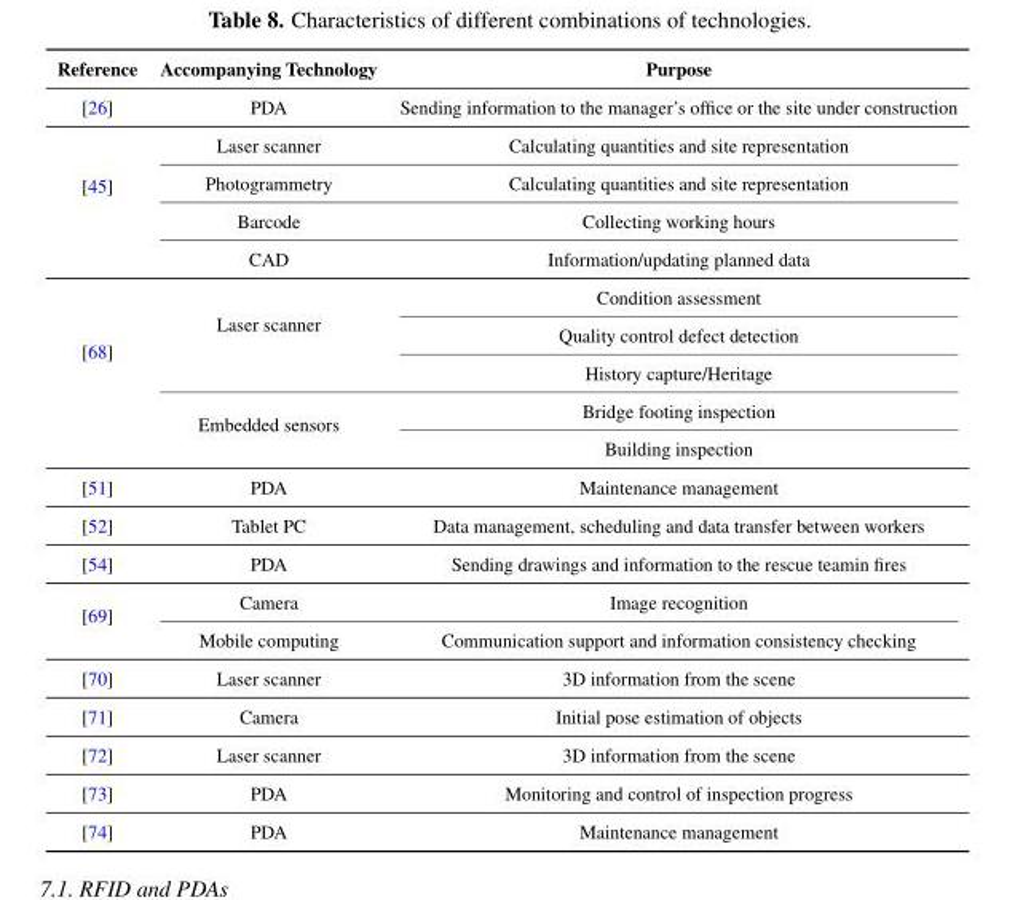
<table><thead><tr><td>Reference</td><td>Accompanying Technology</td><td>Purpose</td></tr></thead><tbody><tr><td>[26]</td><td>PDA</td><td>Sending information to the manager’s office or the site under construction</td></tr><tr><td rowspan="4">[45]</td><td>Laser scanner</td><td>Calculating quantities and site representation</td></tr><tr><td>Photogrammetry</td><td>Calculating quantities and site representation</td></tr><tr><td>Barcode</td><td>Collecting working hours</td></tr><tr><td>CAD</td><td>Information/updating planned data</td></tr><tr><td rowspan="5">[68]</td><td rowspan="3">Laser scanner</td><td>Condition assessment</td></tr><tr><td>Quality control defect detection</td></tr><tr><td>History capture/Heritage</td></tr><tr><td rowspan="2">Embedded sensors</td><td>Bridge footing inspection</td></tr><tr><td>Building inspection</td></tr><tr><td>[51]</td><td>PDA</td><td>Maintenance management</td></tr><tr><td>[52]</td><td>Tablet PC</td><td>Data management, scheduling and data transfer between workers</td></tr><tr><td>[54]</td><td>PDA</td><td>Sending drawings and information to the rescue teamin fires</td></tr><tr><td rowspan="2">[69]</td><td>Camera</td><td>Image recognition</td></tr><tr><td>Mobile computing</td><td>Communication support and information consistency checking</td></tr><tr><td>[70]</td><td>Laser scanner</td><td>3D information from the scene</td></tr><tr><td>[71]</td><td>Camera</td><td>Initial pose estimation of objects</td></tr><tr><td>[72]</td><td>Laser scanner</td><td>3D information from the scene</td></tr><tr><td>[73]</td><td>PDA</td><td>Monitoring and control of inspection progress</td></tr><tr><td>[74]</td><td>PDA</td><td>Maintenance management</td></tr></tbody></table>